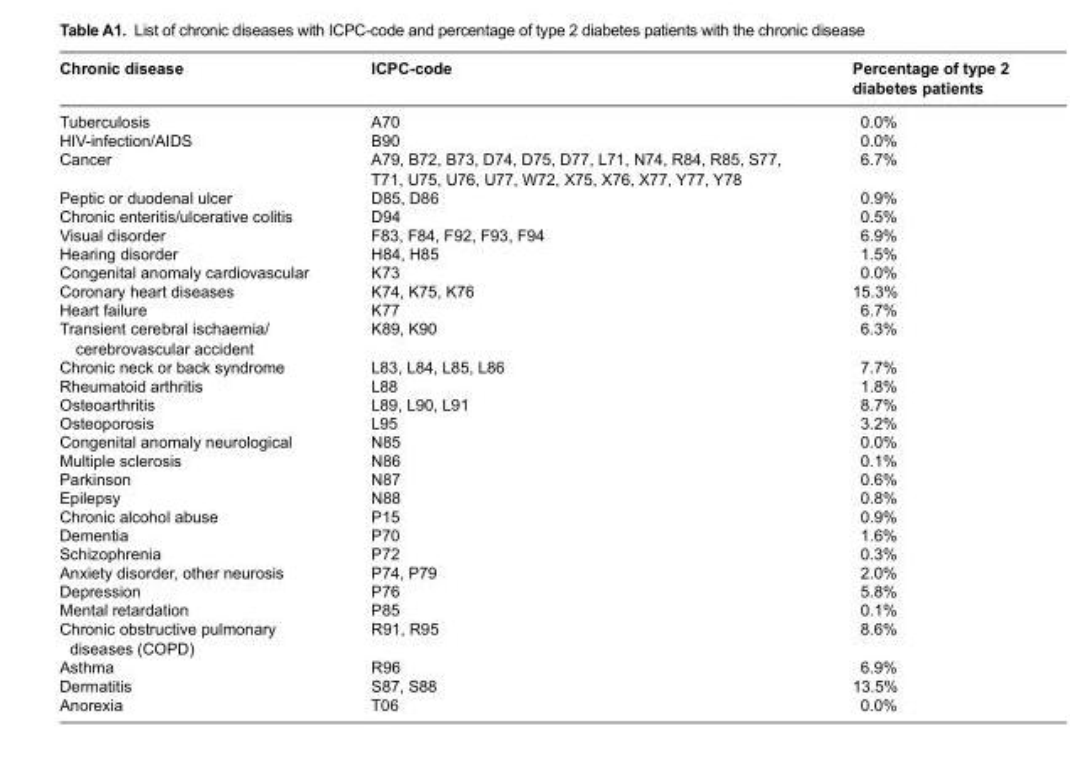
<table><thead><tr><td>Chronic disease</td><td>ICPC-code</td><td>Percentage of type 2 diabetes patients</td></tr></thead><tbody><tr><td>Tuberculosis</td><td>A70</td><td>0.0%</td></tr><tr><td>HIV-infection/AIDS</td><td>B90</td><td>0.0%</td></tr><tr><td>Cancer</td><td>A79, B72, B73, D74, D75, D77, L71, N74, R84, R85, S77, T71, U75, U76, U77, W72, X75, X76, X77, Y77, Y78</td><td>6.7%</td></tr><tr><td>Peptic or duodenal ulcer</td><td>D85, D86</td><td>0.9%</td></tr><tr><td>Chronic enteritis/ulcerative colitis</td><td>D94</td><td>0.5%</td></tr><tr><td>Visual disorder</td><td>F83, F84, F92, F93, F94</td><td>6.9%</td></tr><tr><td>Hearing disorder</td><td>H84, H85</td><td>1.5%</td></tr><tr><td>Congenital anomaly cardiovascular</td><td>K73</td><td>0.0%</td></tr><tr><td>Coronary heart diseases</td><td>K74, K75, K76</td><td>15.3%</td></tr><tr><td>Heart failure</td><td>K77</td><td>6.7%</td></tr><tr><td>Transient cerebral ischaemia/ cerebrovascular accident</td><td>K89, K90</td><td>6.3%</td></tr><tr><td>Chronic neck or back syndrome</td><td>L83, L84, L85, L86</td><td>7.7%</td></tr><tr><td>Rheumatoid arthritis</td><td>L88</td><td>1.8%</td></tr><tr><td>Osteoarthritis</td><td>L89, L90, L91</td><td>8.7%</td></tr><tr><td>Osteoporosis</td><td>L95</td><td>3.2%</td></tr><tr><td>Congenital anomaly neurological</td><td>N85</td><td>0.0%</td></tr><tr><td>Multiple sclerosis</td><td>N86</td><td>0.1%</td></tr><tr><td>Parkinson</td><td>N87</td><td>0.6%</td></tr><tr><td>Epilepsy</td><td>N88</td><td>0.8%</td></tr><tr><td>Chronic alcohol abuse</td><td>P15</td><td>0.9%</td></tr><tr><td>Dementia</td><td>P70</td><td>1.6%</td></tr><tr><td>Schizophrenia</td><td>P72</td><td>0.3%</td></tr><tr><td>Anxiety disorder, other neurosis</td><td>P74, P79</td><td>2.0%</td></tr><tr><td>Depression</td><td>P76</td><td>5.8%</td></tr><tr><td>Mental retardation</td><td>P85</td><td>0.1%</td></tr><tr><td>Chronic obstructive pulmonary diseases (COPD)</td><td>R91, R95</td><td>8.6%</td></tr><tr><td>Asthma</td><td>R96</td><td>6.9%</td></tr><tr><td>Dermatitis</td><td>S87, S88</td><td>13.5%</td></tr><tr><td>Anorexia</td><td>T06</td><td>0.0%</td></tr></tbody></table>